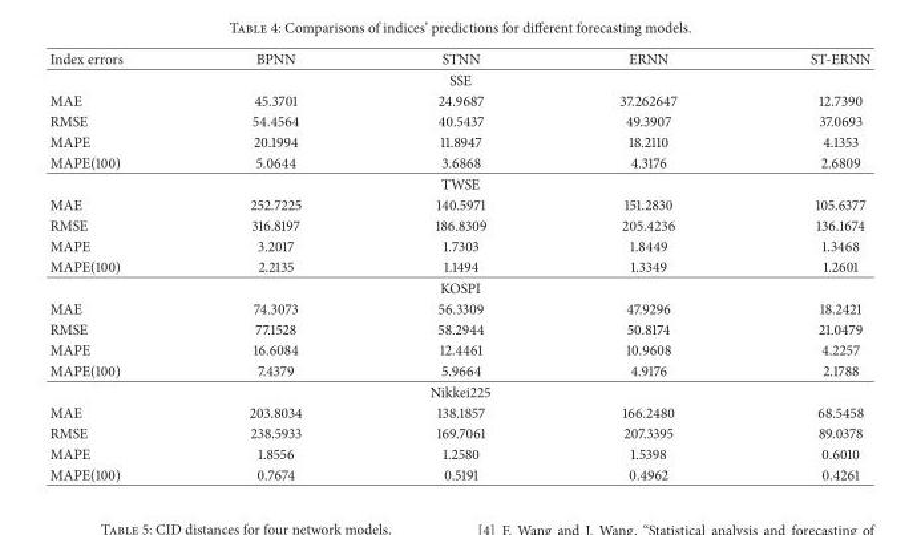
<table><thead><tr><td>Index errors</td><td>BPNN</td><td>STNN</td><td>ERNN</td><td>ST-ERNN</td></tr></thead><tbody><tr><td colspan="5">SSE</td></tr><tr><td>MAE</td><td>45.3701</td><td>24.9687</td><td>37.262647</td><td>12.7390</td></tr><tr><td>RMSE</td><td>54.4564</td><td>40.5437</td><td>49.3907</td><td>37.0693</td></tr><tr><td>MAPE</td><td>20.1994</td><td>11.8947</td><td>18.2110</td><td>4.1353</td></tr><tr><td>MAPE(100)</td><td>5.0644</td><td>3.6868</td><td>4.3176</td><td>2.6809</td></tr><tr><td colspan="5">TWSE</td></tr><tr><td>MAE</td><td>252.7225</td><td>140.5971</td><td>151.2830</td><td>105.6377</td></tr><tr><td>RMSE</td><td>316.8197</td><td>186.8309</td><td>205.4236</td><td>136.1674</td></tr><tr><td>MAPE</td><td>3.2017</td><td>1.7303</td><td>1.8449</td><td>1.3468</td></tr><tr><td>MAPE(100)</td><td>2.2135</td><td>1.1494</td><td>1.3349</td><td>1.2601</td></tr><tr><td colspan="5">KOSPI</td></tr><tr><td>MAE</td><td>74.3073</td><td>56.3309</td><td>47.9296</td><td>18.2421</td></tr><tr><td>RMSE</td><td>77.1528</td><td>58.2944</td><td>50.8174</td><td>21.0479</td></tr><tr><td>MAPE</td><td>16.6084</td><td>12.4461</td><td>10.9608</td><td>4.2257</td></tr><tr><td>MAPE(100)</td><td>7.4379</td><td>5.9664</td><td>4.9176</td><td>2.1788</td></tr><tr><td colspan="5">Nikkei225</td></tr><tr><td>MAE</td><td>203.8034</td><td>138.1857</td><td>166.2480</td><td>68.5458</td></tr><tr><td>RMSE</td><td>238.5933</td><td>169.7061</td><td>207.3395</td><td>89.0378</td></tr><tr><td>MAPE</td><td>1.8556</td><td>1.2580</td><td>1.5398</td><td>0.6010</td></tr><tr><td>MAPE(100)</td><td>0.7674</td><td>0.5191</td><td>0.4962</td><td>0.4261</td></tr></tbody></table>